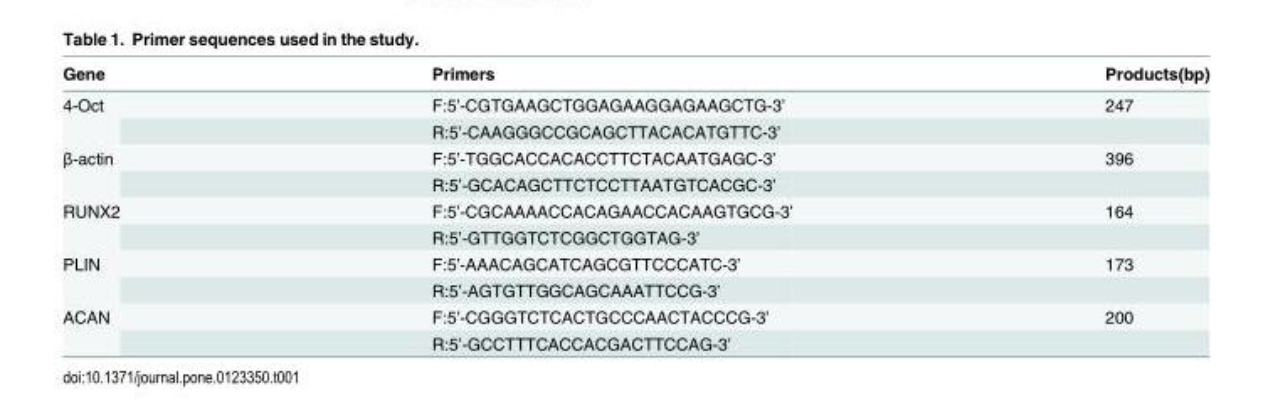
<table><thead><tr><td>Gene</td><td>Primers</td><td>Products(bp)</td></tr></thead><tbody><tr><td rowspan="2">4-Oct</td><td>F:5’-CGTGAAGCTGGAGAAGGAGAAGCTG-3’</td><td>247</td></tr><tr><td>R:5’-CAAGGGCCGCAGCTTACACATGTTC-3’</td><td></td></tr><tr><td rowspan="2">β-actin</td><td>F:5’-TGGCACCACACCTTCTACAATGAGC-3’</td><td>396</td></tr><tr><td>R:5’-GCACAGCTTCTCCTTAATGTCACGC-3’</td><td></td></tr><tr><td rowspan="2">RUNX2</td><td>F:5’-CGCAAAACCACAGAACCACAAGTGCG-3’</td><td>164</td></tr><tr><td>R:5’-GTTGGTCTCGGCTGGTAG-3’</td><td></td></tr><tr><td rowspan="2">PLIN</td><td>F:5’-AAACAGCATCAGCGTTCCCATC-3’</td><td>173</td></tr><tr><td>R:5’-AGTGTTGGCAGCAAATTCCG-3’</td><td></td></tr><tr><td rowspan="2">ACAN</td><td>F:5’-CGGGTCTCACTGCCCAACTACCCG-3’</td><td>200</td></tr><tr><td>R:5’-GCCTTTCACCACGACTTCCAG-3’</td><td></td></tr></tbody></table>